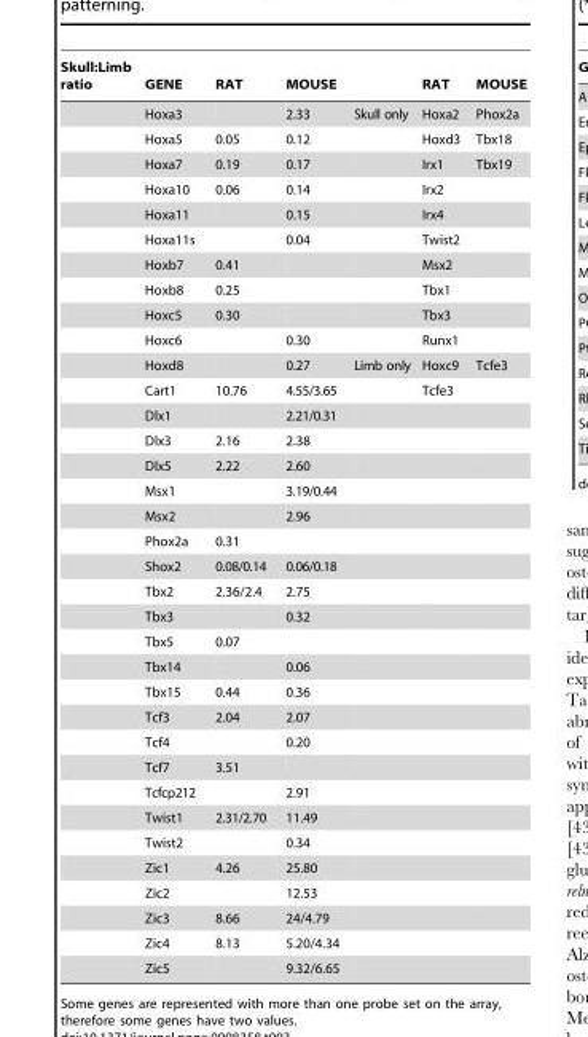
<table><thead><tr><td>Skull:Limb ratio</td><td>GENE</td><td>RAT</td><td>MOUSE</td><td></td><td>RAT</td><td>MOUSE</td></tr></thead><tbody><tr><td></td><td>Hoxa3</td><td></td><td>2.33</td><td>Skull only</td><td>Hoxa2</td><td>Phox2a</td></tr><tr><td></td><td>Hoxa5</td><td>0.05</td><td>0.12</td><td></td><td>Hoxd3</td><td>Tbx18</td></tr><tr><td></td><td>Hoxa7</td><td>0.19</td><td>0.17</td><td></td><td>Irx1</td><td>Tbx19</td></tr><tr><td></td><td>Hoxa10</td><td>0.06</td><td>0.14</td><td></td><td>Irx2</td><td></td></tr><tr><td></td><td>Hoxa11</td><td></td><td>0.15</td><td></td><td>Irx4</td><td></td></tr><tr><td></td><td>Hoxa11s</td><td></td><td>0.04</td><td></td><td>Twist2</td><td></td></tr><tr><td></td><td>Hoxb7</td><td>0.41</td><td></td><td></td><td>Msx2</td><td></td></tr><tr><td></td><td>Hoxb8</td><td>0.25</td><td></td><td></td><td>Tbx1</td><td></td></tr><tr><td></td><td>Hoxc5</td><td>0.30</td><td></td><td></td><td>Tbx3</td><td></td></tr><tr><td></td><td>Hoxc6</td><td></td><td>0.30</td><td></td><td>Runx1</td><td></td></tr><tr><td></td><td>Hoxd8</td><td></td><td>0.27</td><td>Limb only</td><td>Hoxc9</td><td>Tcfe3</td></tr><tr><td></td><td>Cart1</td><td>10.76</td><td>4.55/3.65</td><td></td><td>Tcfe3</td><td></td></tr><tr><td></td><td>Dlx1</td><td></td><td>2.21/0.31</td><td></td><td></td><td></td></tr><tr><td></td><td>Dlx3</td><td>2.16</td><td>2.38</td><td></td><td></td><td></td></tr><tr><td></td><td>Dlx5</td><td>2.22</td><td>2.60</td><td></td><td></td><td></td></tr><tr><td></td><td>Msx1</td><td></td><td>3.19/0.44</td><td></td><td></td><td></td></tr><tr><td></td><td>Msx2</td><td></td><td>2.96</td><td></td><td></td><td></td></tr><tr><td></td><td>Phox2a</td><td>0.31</td><td></td><td></td><td></td><td></td></tr><tr><td></td><td>Shox2</td><td>0.08/0.14</td><td>0.06/0.18</td><td></td><td></td><td></td></tr><tr><td></td><td>Tbx2</td><td>2.36/2.4</td><td>2.75</td><td></td><td></td><td></td></tr><tr><td></td><td>Tbx3</td><td></td><td>0.32</td><td></td><td></td><td></td></tr><tr><td></td><td>Tbx5</td><td>0.07</td><td></td><td></td><td></td><td></td></tr><tr><td></td><td>Tbx14</td><td></td><td>0.06</td><td></td><td></td><td></td></tr><tr><td></td><td>Tbx15</td><td>0.44</td><td>0.36</td><td></td><td></td><td></td></tr><tr><td></td><td>Tcf3</td><td>2.04</td><td>2.07</td><td></td><td></td><td></td></tr><tr><td></td><td>Tcf4</td><td></td><td>0.20</td><td></td><td></td><td></td></tr><tr><td></td><td>Tcf7</td><td>3.51</td><td></td><td></td><td></td><td></td></tr><tr><td></td><td>Tcfcp212</td><td></td><td>2.91</td><td></td><td></td><td></td></tr><tr><td></td><td>Twist1</td><td>2.31/2.70</td><td>11.49</td><td></td><td></td><td></td></tr><tr><td></td><td>Twist2</td><td></td><td>0.34</td><td></td><td></td><td></td></tr><tr><td></td><td>Zic1</td><td>4.26</td><td>25.80</td><td></td><td></td><td></td></tr><tr><td></td><td>Zic2</td><td></td><td>12.53</td><td></td><td></td><td></td></tr><tr><td></td><td>Zic3</td><td>8.66</td><td>24/4.79</td><td></td><td></td><td></td></tr><tr><td></td><td>Zic4</td><td>8.13</td><td>5.20/4.34</td><td></td><td></td><td></td></tr><tr><td></td><td>Zic5</td><td></td><td>9.32/6.65</td><td></td><td></td><td></td></tr></tbody></table>